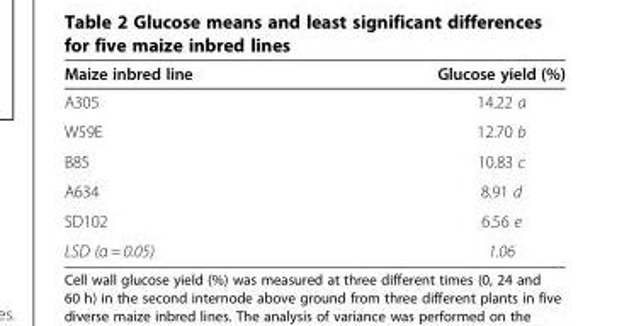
<table><thead><tr><td>Maize inbred line</td><td>Glucose yield (%)</td></tr></thead><tbody><tr><td>A305</td><td>14.22 a</td></tr><tr><td>W59E</td><td>12.70 b</td></tr><tr><td>B85</td><td>10.83 c</td></tr><tr><td>A634</td><td>8.91 d</td></tr><tr><td>SD102</td><td>6.56 e</td></tr><tr><td>LSD (α = 0.05)</td><td>1.06</td></tr></tbody></table>